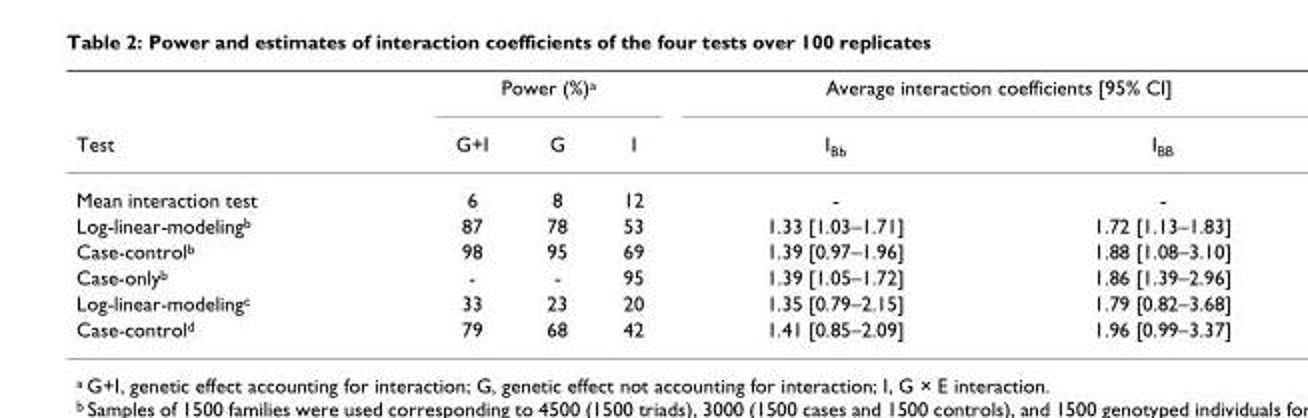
<table><thead><tr><td rowspan="2">Test</td><td colspan="3">Power (%)<sup>a</sup></td><td colspan="2">Average interaction coefficients [95% CI]</td></tr><tr><td>G+I</td><td>G</td><td>I</td><td>I<sub>Bb</sub></td><td>I<sub>BB</sub></td></tr></thead><tbody><tr><td>Mean interaction test</td><td>6</td><td>8</td><td>12</td><td>-</td><td>-</td></tr><tr><td>Log-linear-modeling<sup>b</sup></td><td>87</td><td>78</td><td>53</td><td>1.33 [1.03–1.71]</td><td>1.72 [1.13–1.83]</td></tr><tr><td>Case-control<sup>b</sup></td><td>98</td><td>95</td><td>69</td><td>1.39 [0.97–1.96]</td><td>1.88 [1.08–3.10]</td></tr><tr><td>Case-only<sup>b</sup></td><td>-</td><td>-</td><td>95</td><td>1.39 [1.05–1.72]</td><td>1.86 [1.39–2.96]</td></tr><tr><td>Log-linear-modeling<sup>c</sup></td><td>33</td><td>23</td><td>20</td><td>1.35 [0.79–2.15]</td><td>1.79 [0.82–3.68]</td></tr><tr><td>Case-control<sup>d</sup></td><td>79</td><td>68</td><td>42</td><td>1.41 [0.85–2.09]</td><td>1.96 [0.99–3.37]</td></tr></tbody></table>